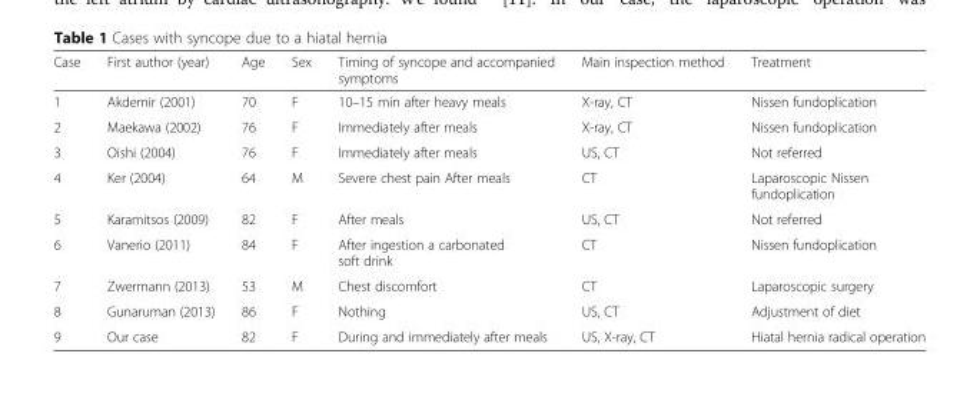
<table><thead><tr><td>Case</td><td>First author (year)</td><td>Age</td><td>Sex</td><td>Timing of syncope and accompanied symptoms</td><td>Main inspection method</td><td>Treatment</td></tr></thead><tbody><tr><td>1</td><td>Akdemir (2001)</td><td>70</td><td>F</td><td>10–15 min after heavy meals</td><td>X-ray, CT</td><td>Nissen fundoplication</td></tr><tr><td>2</td><td>Maekawa (2002)</td><td>76</td><td>F</td><td>Immediately after meals</td><td>X-ray, CT</td><td>Nissen fundoplication</td></tr><tr><td>3</td><td>Oishi (2004)</td><td>76</td><td>F</td><td>Immediately after meals</td><td>US, CT</td><td>Not referred</td></tr><tr><td>4</td><td>Ker (2004)</td><td>64</td><td>M</td><td>Severe chest pain After meals</td><td>CT</td><td>Laparoscopic Nissen fundoplication</td></tr><tr><td>5</td><td>Karamitsos (2009)</td><td>82</td><td>F</td><td>After meals</td><td>US, CT</td><td>Not referred</td></tr><tr><td>6</td><td>Vanerio (2011)</td><td>84</td><td>F</td><td>After ingestion a carbonated soft drink</td><td>CT</td><td>Nissen fundoplication</td></tr><tr><td>7</td><td>Zwermann (2013)</td><td>53</td><td>M</td><td>Chest discomfort</td><td>CT</td><td>Laparoscopic surgery</td></tr><tr><td>8</td><td>Gunaruman (2013)</td><td>86</td><td>F</td><td>Nothing</td><td>US, CT</td><td>Adjustment of diet</td></tr><tr><td>9</td><td>Our case</td><td>82</td><td>F</td><td>During and immediately after meals</td><td>US, X-ray, CT</td><td>Hiatal hernia radical operation</td></tr></tbody></table>